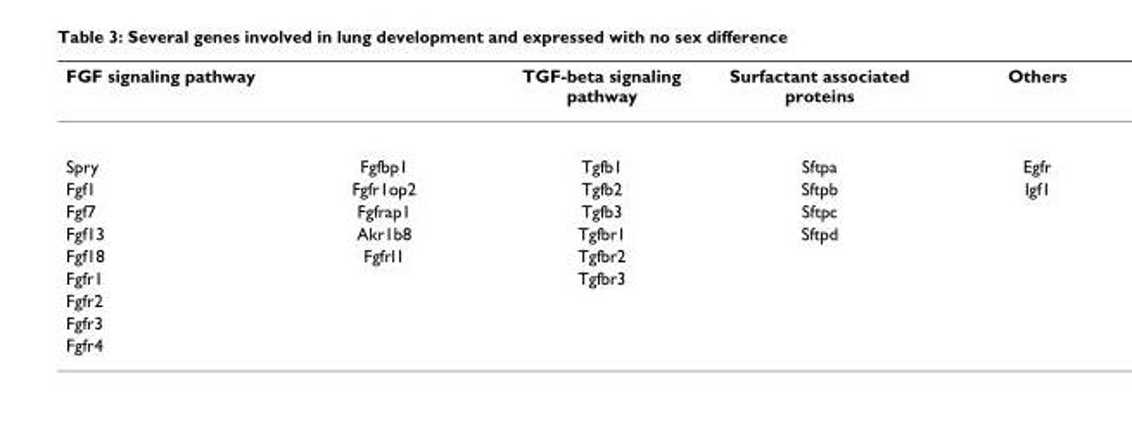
<table><thead><tr><td>FGF signaling pathway</td><td></td><td>TGF-beta signaling pathway</td><td>Surfactant associated proteins</td><td>Others</td></tr></thead><tbody><tr><td>Spry</td><td>Fgfbp1</td><td>Tgfb1</td><td>Sftpa</td><td>Egfr</td></tr><tr><td>Fgf1</td><td>Fgfr1op2</td><td>Tgfb2</td><td>Sftpb</td><td>Igf1</td></tr><tr><td>Fgf7</td><td>Fgfrap1</td><td>Tgfb3</td><td>Sftpc</td><td></td></tr><tr><td>Fgf13</td><td>Akr1b8</td><td>Tgfbr1</td><td>Sftpd</td><td></td></tr><tr><td>Fgf18</td><td>Fgfrl1</td><td>Tgfbr2</td><td></td><td></td></tr><tr><td>Fgfr1</td><td></td><td>Tgfbr3</td><td></td><td></td></tr><tr><td colspan="5">Fgfr2</td></tr><tr><td colspan="5">Fgfr3</td></tr><tr><td>Fgfr4</td><td></td><td></td><td></td><td></td></tr></tbody></table>